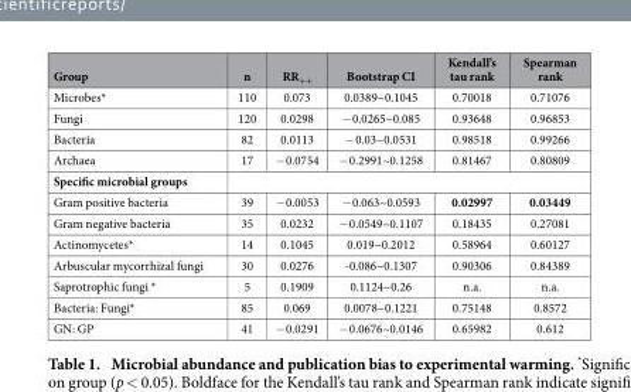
<table><thead><tr><td>Group</td><td>n</td><td>RR<sub>++</sub></td><td>Bootstrap CI</td><td>Kendall’s tau rank</td><td>Spearman rank</td></tr></thead><tbody><tr><td>Microbes*</td><td>110</td><td>0.073</td><td>0.0389~0.1045</td><td>0.70018</td><td>0.71076</td></tr><tr><td>Fungi</td><td>120</td><td>0.0298</td><td>− 0.0265~0.085</td><td>0.93648</td><td>0.96853</td></tr><tr><td>Bacteria</td><td>82</td><td>0.0113</td><td>− 0.03~0.0531</td><td>0.98518</td><td>0.99266</td></tr><tr><td>Archaea</td><td>17</td><td>− 0.0754</td><td>− 0.2991~0.1258</td><td>0.81467</td><td>0.80809</td></tr><tr><td colspan="6">Specific microbial groups</td></tr><tr><td>Gram positive bacteria</td><td>39</td><td>− 0.0053</td><td>− 0.063~0.0593</td><td>0.02997</td><td>0.03449</td></tr><tr><td>Gram negative bacteria</td><td>35</td><td>0.0232</td><td>− 0.0549~0.1107</td><td>0.18435</td><td>0.27081</td></tr><tr><td>Actinomycetes*</td><td>14</td><td>0.1045</td><td>0.019~0.2012</td><td>0.58964</td><td>0.60127</td></tr><tr><td>Arbuscular mycorrhizal fungi</td><td>30</td><td>0.0276</td><td>-0.086~0.1307</td><td>0.90306</td><td>0.84389</td></tr><tr><td>Saprotrophic fungi *</td><td>5</td><td>0.1909</td><td>0.1124~0.26</td><td>n.a.</td><td>n.a.</td></tr><tr><td>Bacteria: Fungi*</td><td>85</td><td>0.069</td><td>0.0078~0.1221</td><td>0.75148</td><td>0.8572</td></tr><tr><td>GN: GP</td><td>41</td><td>− 0.0291</td><td>− 0.0676~0.0146</td><td>0.65982</td><td>0.612</td></tr></tbody></table>